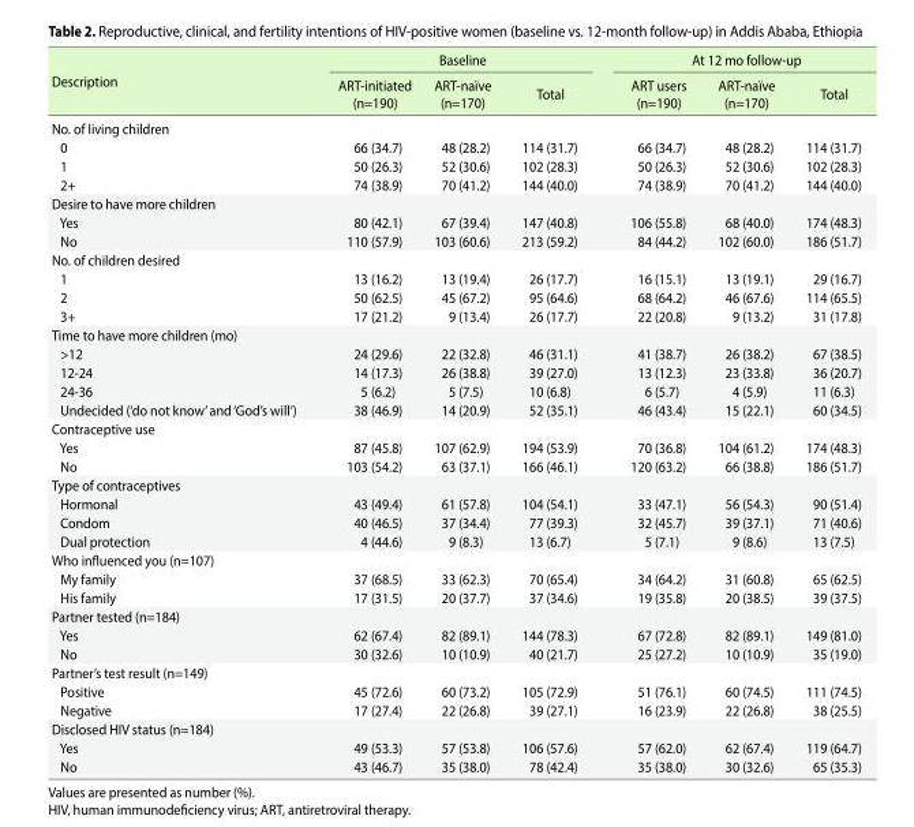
<table><thead><tr><td rowspan="2">Description</td><td colspan="3">Baseline</td><td colspan="3">At 12 mo follow-up</td></tr><tr><td>ART-initiated (n=190)</td><td>ART-naïve (n=170)</td><td>Total</td><td>ART users (n=190)</td><td>ART-naïve (n=170)</td><td>Total</td></tr></thead><tbody><tr><td colspan="7">No. of living children</td></tr><tr><td>0</td><td>66 (34.7)</td><td>48 (28.2)</td><td>114 (31.7)</td><td>66 (34.7)</td><td>48 (28.2)</td><td>114 (31.7)</td></tr><tr><td>1</td><td>50 (26.3)</td><td>52 (30.6)</td><td>102 (28.3)</td><td>50 (26.3)</td><td>52 (30.6)</td><td>102 (28.3)</td></tr><tr><td>2+</td><td>74 (38.9)</td><td>70 (41.2)</td><td>144 (40.0)</td><td>74 (38.9)</td><td>70 (41.2)</td><td>144 (40.0)</td></tr><tr><td colspan="7">Desire to have more children</td></tr><tr><td>Yes</td><td>80 (42.1)</td><td>67 (39.4)</td><td>147 (40.8)</td><td>106 (55.8)</td><td>68 (40.0)</td><td>174 (48.3)</td></tr><tr><td>No</td><td>110 (57.9)</td><td>103 (60.6)</td><td>213 (59.2)</td><td>84 (44.2)</td><td>102 (60.0)</td><td>186 (51.7)</td></tr><tr><td colspan="7">No. of children desired</td></tr><tr><td>1</td><td>13 (16.2)</td><td>13 (19.4)</td><td>26 (17.7)</td><td>16 (15.1)</td><td>13 (19.1)</td><td>29 (16.7)</td></tr><tr><td>2</td><td>50 (62.5)</td><td>45 (67.2)</td><td>95 (64.6)</td><td>68 (64.2)</td><td>46 (67.6)</td><td>114 (65.5)</td></tr><tr><td>3+</td><td>17 (21.2)</td><td>9 (13.4)</td><td>26 (17.7)</td><td>22 (20.8)</td><td>9 (13.2)</td><td>31 (17.8)</td></tr><tr><td colspan="7">Time to have more children (mo)</td></tr><tr><td>&gt;12</td><td>24 (29.6)</td><td>22 (32.8)</td><td>46 (31.1)</td><td>41 (38.7)</td><td>26 (38.2)</td><td>67 (38.5)</td></tr><tr><td>12-24</td><td>14 (17.3)</td><td>26 (38.8)</td><td>39 (27.0)</td><td>13 (12.3)</td><td>23 (33.8)</td><td>36 (20.7)</td></tr><tr><td>24-36</td><td>5 (6.2)</td><td>5 (7.5)</td><td>10 (6.8)</td><td>6 (5.7)</td><td>4 (5.9)</td><td>11 (6.3)</td></tr><tr><td>Undecided (‘do not know’ and ‘God’s will’)</td><td>38 (46.9)</td><td>14 (20.9)</td><td>52 (35.1)</td><td>46 (43.4)</td><td>15 (22.1)</td><td>60 (34.5)</td></tr><tr><td colspan="7">Contraceptive use</td></tr><tr><td>Yes</td><td>87 (45.8)</td><td>107 (62.9)</td><td>194 (53.9)</td><td>70 (36.8)</td><td>104 (61.2)</td><td>174 (48.3)</td></tr><tr><td>No</td><td>103 (54.2)</td><td>63 (37.1)</td><td>166 (46.1)</td><td>120 (63.2)</td><td>66 (38.8)</td><td>186 (51.7)</td></tr><tr><td colspan="7">Type of contraceptives</td></tr><tr><td>Hormonal</td><td>43 (49.4)</td><td>61 (57.8)</td><td>104 (54.1)</td><td>33 (47.1)</td><td>56 (54.3)</td><td>90 (51.4)</td></tr><tr><td>Condom</td><td>40 (46.5)</td><td>37 (34.4)</td><td>77 (39.3)</td><td>32 (45.7)</td><td>39 (37.1)</td><td>71 (40.6)</td></tr><tr><td>Dual protection</td><td>4 (44.6)</td><td>9 (8.3)</td><td>13 (6.7)</td><td>5 (7.1)</td><td>9 (8.6)</td><td>13 (7.5)</td></tr><tr><td colspan="7">Who influenced you (n=107)</td></tr><tr><td>My family</td><td>37 (68.5)</td><td>33 (62.3)</td><td>70 (65.4)</td><td>34 (64.2)</td><td>31 (60.8)</td><td>65 (62.5)</td></tr><tr><td>His family</td><td>17 (31.5)</td><td>20 (37.7)</td><td>37 (34.6)</td><td>19 (35.8)</td><td>20 (38.5)</td><td>39 (37.5)</td></tr><tr><td colspan="7">Partner tested (n=184)</td></tr><tr><td>Yes</td><td>62 (67.4)</td><td>82 (89.1)</td><td>144 (78.3)</td><td>67 (72.8)</td><td>82 (89.1)</td><td>149 (81.0)</td></tr><tr><td>No</td><td>30 (32.6)</td><td>10 (10.9)</td><td>40 (21.7)</td><td>25 (27.2)</td><td>10 (10.9)</td><td>35 (19.0)</td></tr><tr><td colspan="7">Partner’s test result (n=149)</td></tr><tr><td>Positive</td><td>45 (72.6)</td><td>60 (73.2)</td><td>105 (72.9)</td><td>51 (76.1)</td><td>60 (74.5)</td><td>111 (74.5)</td></tr><tr><td>Negative</td><td>17 (27.4)</td><td>22 (26.8)</td><td>39 (27.1)</td><td>16 (23.9)</td><td>22 (26.8)</td><td>38 (25.5)</td></tr><tr><td colspan="7">Disclosed HIV status (n=184)</td></tr><tr><td>Yes</td><td>49 (53.3)</td><td>57 (53.8)</td><td>106 (57.6)</td><td>57 (62.0)</td><td>62 (67.4)</td><td>119 (64.7)</td></tr><tr><td>No</td><td>43 (46.7)</td><td>35 (38.0)</td><td>78 (42.4)</td><td>35 (38.0)</td><td>30 (32.6)</td><td>65 (35.3)</td></tr></tbody></table>